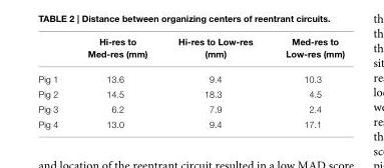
<table><thead><tr><td></td><td>Hi-res to Med-res (mm)</td><td>Hi-res to Low-res (mm)</td><td>Med-res to Low-res (mm)</td></tr></thead><tbody><tr><td>Pig 1</td><td>13.6</td><td>9.4</td><td>10.3</td></tr><tr><td>Pig 2</td><td>14.5</td><td>18.3</td><td>4.5</td></tr><tr><td>Pig 3</td><td>6.2</td><td>7.9</td><td>2.4</td></tr><tr><td>Pig 4</td><td>13.0</td><td>9.4</td><td>17.1</td></tr></tbody></table>